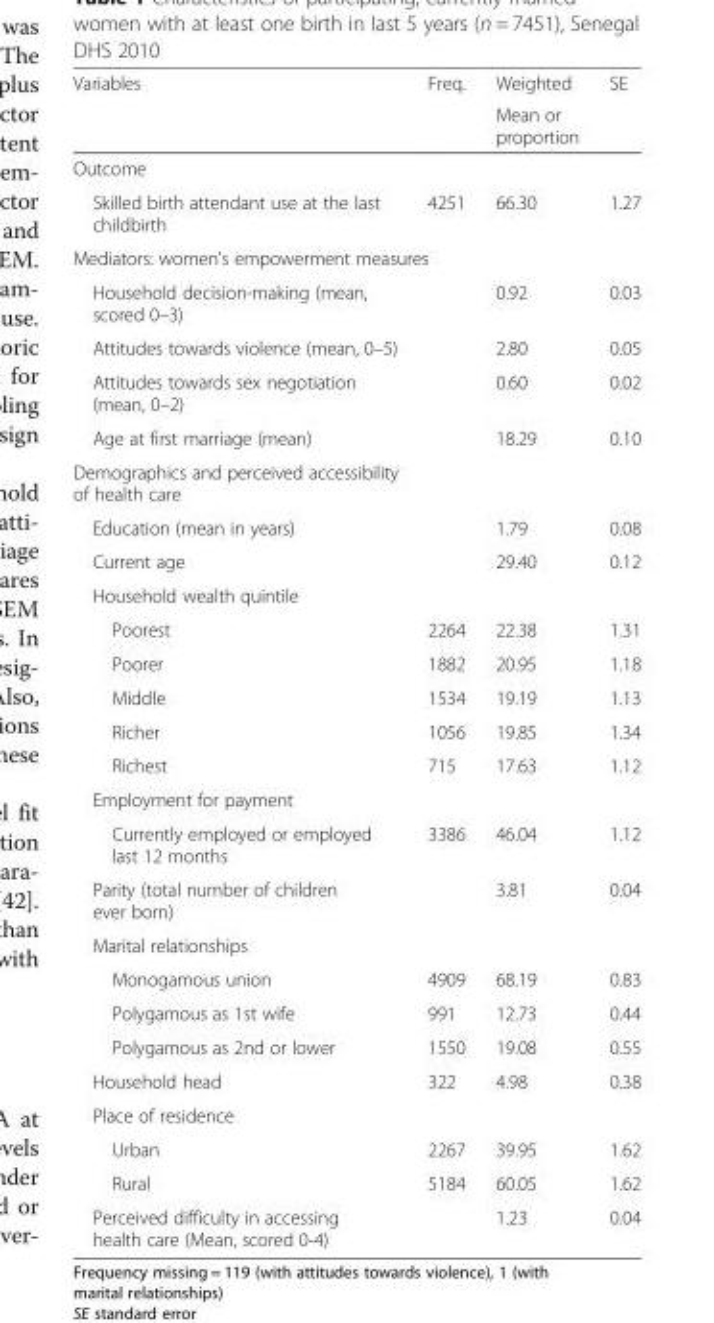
<table><thead><tr><td rowspan="2">Variables</td><td rowspan="2">Freq.</td><td rowspan="2">Weighted Mean or proportion</td><td rowspan="2">SE</td></tr><tr></tr></thead><tbody><tr><td colspan="4">Outcome</td></tr><tr><td>Skilled birth attendant use at the last childbirth</td><td>4251</td><td>66.30</td><td>1.27</td></tr><tr><td colspan="4">Mediators: women&#x27;s empowerment measures</td></tr><tr><td>Household decision-making (mean, scored 0–3)</td><td></td><td>0.92</td><td>0.03</td></tr><tr><td>Attitudes towards violence (mean, 0–5)</td><td></td><td>2.80</td><td>0.05</td></tr><tr><td>Attitudes towards sex negotiation (mean, 0–2)</td><td></td><td>0.60</td><td>0.02</td></tr><tr><td>Age at first marriage (mean)</td><td></td><td>18.29</td><td>0.10</td></tr><tr><td colspan="4">Demographics and perceived accessibility of health care</td></tr><tr><td>Education (mean in years)</td><td></td><td>1.79</td><td>0.08</td></tr><tr><td>Current age</td><td></td><td>29.40</td><td>0.12</td></tr><tr><td colspan="4">Household wealth quintile</td></tr><tr><td>Poorest</td><td>2264</td><td>22.38</td><td>1.31</td></tr><tr><td>Poorer</td><td>1882</td><td>20.95</td><td>1.18</td></tr><tr><td>Middle</td><td>1534</td><td>19.19</td><td>1.13</td></tr><tr><td>Richer</td><td>1056</td><td>19.85</td><td>1.34</td></tr><tr><td>Richest</td><td>715</td><td>17.63</td><td>1.12</td></tr><tr><td colspan="4">Employment for payment</td></tr><tr><td>Currently employed or employed last 12 months</td><td>3386</td><td>46.04</td><td>1.12</td></tr><tr><td>Parity (total number of children ever born)</td><td></td><td>3.81</td><td>0.04</td></tr><tr><td colspan="4">Marital relationships</td></tr><tr><td>Monogamous union</td><td>4909</td><td>68.19</td><td>0.83</td></tr><tr><td>Polygamous as 1st wife</td><td>991</td><td>12.73</td><td>0.44</td></tr><tr><td>Polygamous as 2nd or lower</td><td>1550</td><td>19.08</td><td>0.55</td></tr><tr><td>Household head</td><td>322</td><td>4.98</td><td>0.38</td></tr><tr><td colspan="4">Place of residence</td></tr><tr><td>Urban</td><td>2267</td><td>39.95</td><td>1.62</td></tr><tr><td>Rural</td><td>5184</td><td>60.05</td><td>1.62</td></tr><tr><td>Perceived difficulty in accessing health care (Mean, scored 0-4)</td><td></td><td>1.23</td><td>0.04</td></tr></tbody></table>